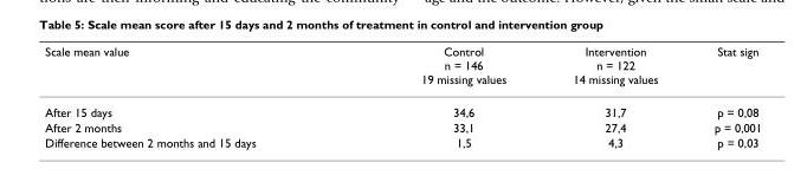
<table><thead><tr><td>Scale mean value</td><td>Control n = 146 19 missing values</td><td>Intervention n = 122 14 missing values</td><td>Stat sign</td></tr></thead><tbody><tr><td>After 15 days</td><td>34,6</td><td>31,7</td><td>p = 0,08</td></tr><tr><td>After 2 months</td><td>33,1</td><td>27,4</td><td>p = 0,001</td></tr><tr><td>Difference between 2 months and 15 days</td><td>1,5</td><td>4,3</td><td>p = 0,03</td></tr></tbody></table>